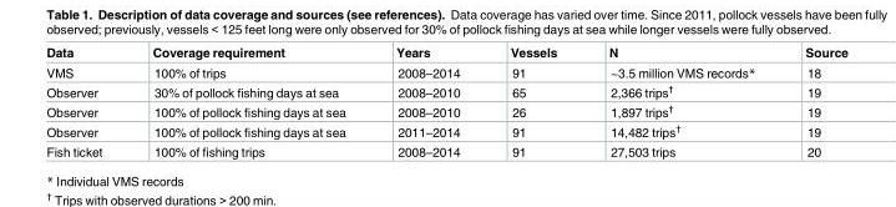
<table><thead><tr><td>Data</td><td>Coverage requirement</td><td>Years</td><td>Vessels</td><td>N</td><td>Source</td></tr></thead><tbody><tr><td>VMS</td><td>100% of trips</td><td>2008–2014</td><td>91</td><td>~3.5 million VMS records*</td><td>18</td></tr><tr><td>Observer</td><td>30% of pollock fishing days at sea</td><td>2008–2010</td><td>65</td><td>2,366 trips<sup>†</sup></td><td>19</td></tr><tr><td>Observer</td><td>100% of pollock fishing days at sea</td><td>2008–2010</td><td>26</td><td>1,897 trips<sup>†</sup></td><td>19</td></tr><tr><td>Observer</td><td>100% of pollock fishing days at sea</td><td>2011–2014</td><td>91</td><td>14,482 trips<sup>†</sup></td><td>19</td></tr><tr><td>Fish ticket</td><td>100% of fishing trips</td><td>2008–2014</td><td>91</td><td>27,503 trips</td><td>20</td></tr></tbody></table>